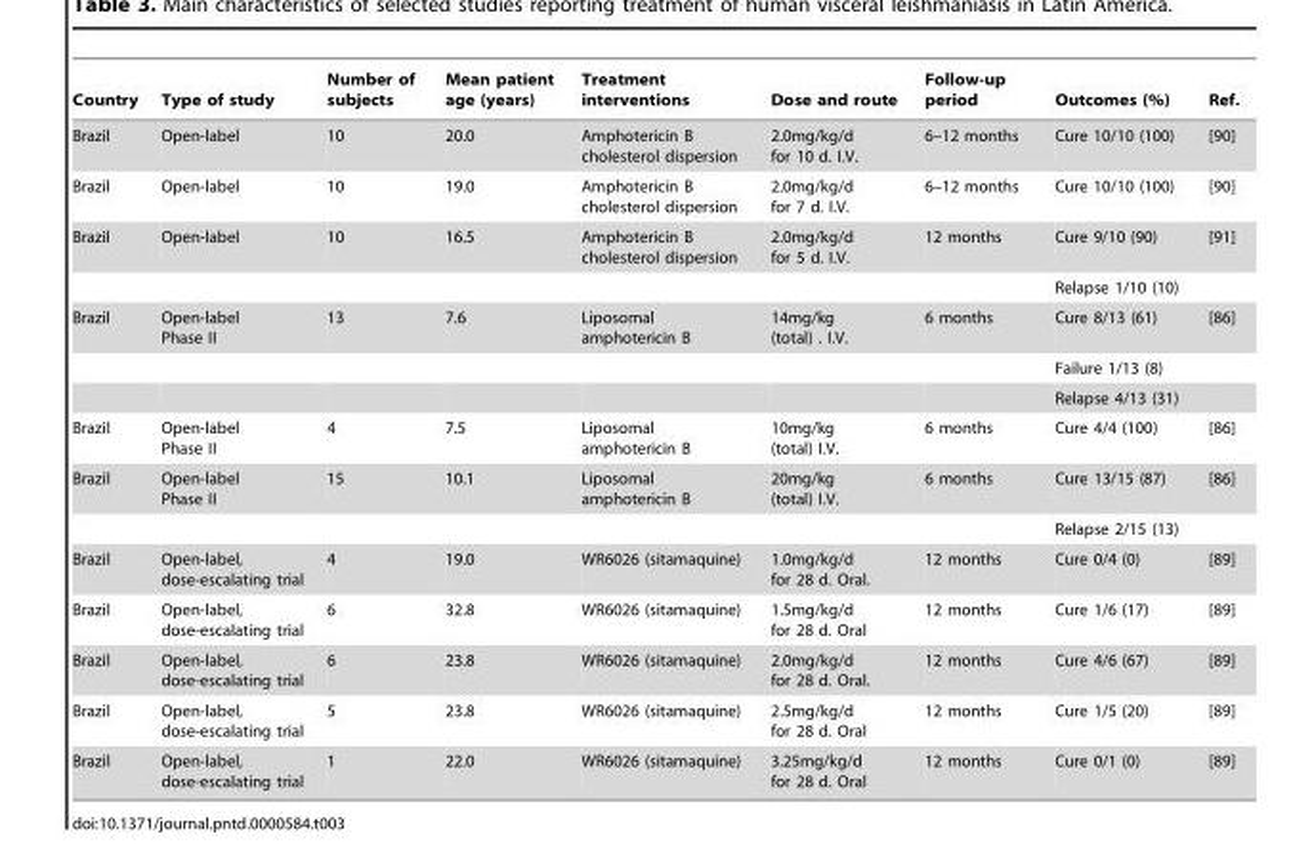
<table><thead><tr><td>Country</td><td>Type of study</td><td>Number of subjects</td><td>Mean patient age (years)</td><td>Treatment interventions</td><td>Dose and route</td><td>Follow-up period</td><td>Outcomes (%)</td><td>Ref.</td></tr></thead><tbody><tr><td>Brazil</td><td>Open-label</td><td>10</td><td>20.0</td><td>Amphotericin B cholesterol dispersion</td><td>2.0mg/kg/d for 10 d. I.V.</td><td>6–12 months</td><td>Cure 10/10 (100)</td><td>[90]</td></tr><tr><td>Brazil</td><td>Open-label</td><td>10</td><td>19.0</td><td>Amphotericin B cholesterol dispersion</td><td>2.0mg/kg/d for 7 d. I.V.</td><td>6–12 months</td><td>Cure 10/10 (100)</td><td>[90]</td></tr><tr><td rowspan="2">Brazil</td><td>Open-label</td><td>10</td><td>16.5</td><td>Amphotericin B cholesterol dispersion</td><td>2.0mg/kg/d for 5 d. I.V.</td><td>12 months</td><td>Cure 9/10 (90)</td><td>[91]</td></tr><tr><td></td><td></td><td></td><td></td><td></td><td></td><td>Relapse 1/10 (10)</td><td></td></tr><tr><td rowspan="3">Brazil</td><td>Open-label Phase II</td><td>13</td><td>7.6</td><td>Liposomal amphotericin B</td><td>14mg/kg (total) . I.V.</td><td>6 months</td><td>Cure 8/13 (61)</td><td>[86]</td></tr><tr><td></td><td></td><td></td><td></td><td></td><td></td><td>Failure 1/13 (8)</td><td></td></tr><tr><td></td><td></td><td></td><td></td><td></td><td></td><td>Relapse 4/13 (31)</td><td></td></tr><tr><td>Brazil</td><td>Open-label Phase II</td><td>4</td><td>7.5</td><td>Liposomal amphotericin B</td><td>10mg/kg (total) I.V.</td><td>6 months</td><td>Cure 4/4 (100)</td><td>[86]</td></tr><tr><td rowspan="2">Brazil</td><td>Open-label Phase II</td><td>15</td><td>10.1</td><td>Liposomal amphotericin B</td><td>20mg/kg (total) I.V.</td><td>6 months</td><td>Cure 13/15 (87)</td><td>[86]</td></tr><tr><td></td><td></td><td></td><td></td><td></td><td></td><td>Relapse 2/15 (13)</td><td></td></tr><tr><td>Brazil</td><td>Open-label, dose-escalating trial</td><td>4</td><td>19.0</td><td>WR6026 (sitamaquine)</td><td>1.0mg/kg/d for 28 d. Oral.</td><td>12 months</td><td>Cure 0/4 (0)</td><td>[89]</td></tr><tr><td>Brazil</td><td>Open-label, dose-escalating trial</td><td>6</td><td>32.8</td><td>WR6026 (sitamaquine)</td><td>1.5mg/kg/d for 28 d. Oral</td><td>12 months</td><td>Cure 1/6 (17)</td><td>[89]</td></tr><tr><td>Brazil</td><td>Open-label, dose-escalating trial</td><td>6</td><td>23.8</td><td>WR6026 (sitamaquine)</td><td>2.0mg/kg/d for 28 d. Oral.</td><td>12 months</td><td>Cure 4/6 (67)</td><td>[89]</td></tr><tr><td>Brazil</td><td>Open-label, dose-escalating trial</td><td>5</td><td>23.8</td><td>WR6026 (sitamaquine)</td><td>2.5mg/kg/d for 28 d. Oral</td><td>12 months</td><td>Cure 1/5 (20)</td><td>[89]</td></tr><tr><td>Brazil</td><td>Open-label, dose-escalating trial</td><td>1</td><td>22.0</td><td>WR6026 (sitamaquine)</td><td>3.25mg/kg/d for 28 d. Oral</td><td>12 months</td><td>Cure 0/1 (0)</td><td>[89]</td></tr></tbody></table>